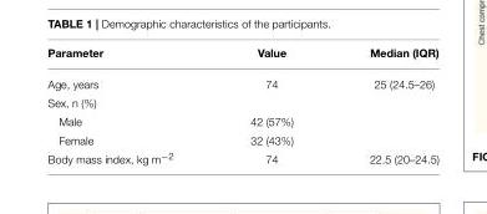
<table><thead><tr><td>Parameter</td><td>Value</td><td>Median (IQR)</td></tr></thead><tbody><tr><td>Age, years</td><td>74</td><td>25 (24.5–26)</td></tr><tr><td colspan="3">Sex, n (%)</td></tr><tr><td>Male</td><td>42 (57%)</td><td></td></tr><tr><td>Female</td><td>32 (43%)</td><td></td></tr><tr><td>Body mass index, kg m<sup>−2</sup></td><td>74</td><td>22.5 (20–24.5)</td></tr></tbody></table>